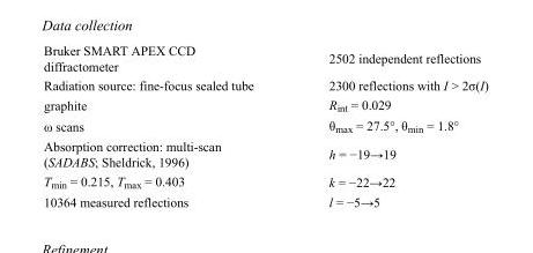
<table><tbody><tr><td>Bruker SMART APEX CCD diffractometer</td><td>2502 independent reflections</td></tr><tr><td>Radiation source: fine-focus sealed tube</td><td>2300 reflections with I &gt; 2σ(I)</td></tr><tr><td>graphite</td><td>R<sub>int</sub> = 0.029</td></tr><tr><td>ω scans</td><td>θ<sub>max</sub> = 27.5°, θ<sub>min</sub> = 1.8°</td></tr><tr><td>Absorption correction: multi-scan (SADABS; Sheldrick, 1996)</td><td>h = −19→19</td></tr><tr><td>T<sub>min</sub> = 0.215, T<sub>max</sub> = 0.403</td><td>k = −22→22</td></tr><tr><td>10364 measured reflections</td><td>l = −5→5</td></tr></tbody></table>